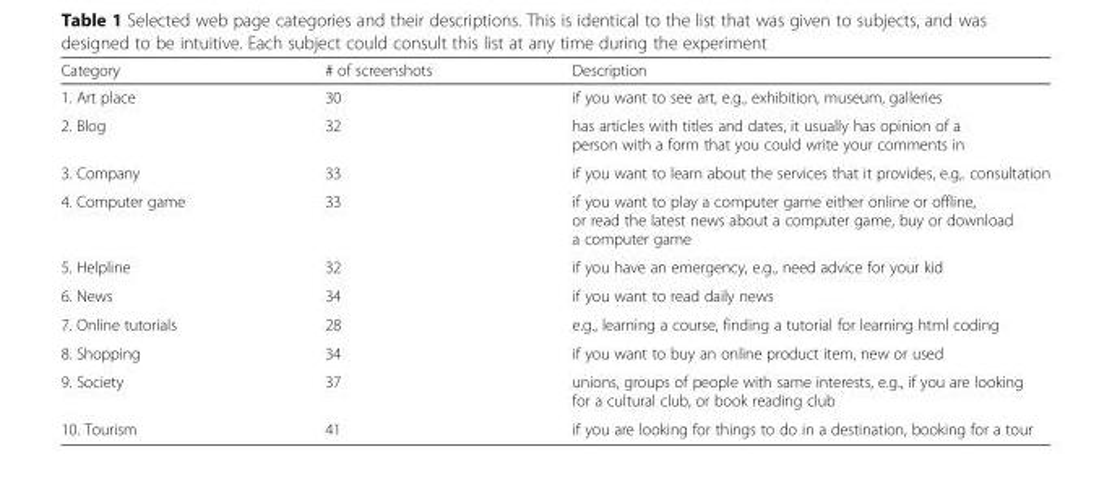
<table><thead><tr><td>Category</td><td># of screenshots</td><td>Description</td></tr></thead><tbody><tr><td>1. Art place</td><td>30</td><td>if you want to see art, e.g., exhibition, museum, galleries</td></tr><tr><td>2. Blog</td><td>32</td><td>has articles with titles and dates, it usually has opinion of a person with a form that you could write your comments in</td></tr><tr><td>3. Company</td><td>33</td><td>if you want to learn about the services that it provides, e.g,. consultation</td></tr><tr><td>4. Computer game</td><td>33</td><td>if you want to play a computer game either online or offline, or read the latest news about a computer game, buy or download a computer game</td></tr><tr><td>5. Helpline</td><td>32</td><td>if you have an emergency, e.g., need advice for your kid</td></tr><tr><td>6. News</td><td>34</td><td>if you want to read daily news</td></tr><tr><td>7. Online tutorials</td><td>28</td><td>e.g., learning a course, finding a tutorial for learning html coding</td></tr><tr><td>8. Shopping</td><td>34</td><td>if you want to buy an online product item, new or used</td></tr><tr><td>9. Society</td><td>37</td><td>unions, groups of people with same interests, e.g., if you are looking for a cultural club, or book reading club</td></tr><tr><td>10. Tourism</td><td>41</td><td>if you are looking for things to do in a destination, booking for a tour</td></tr></tbody></table>